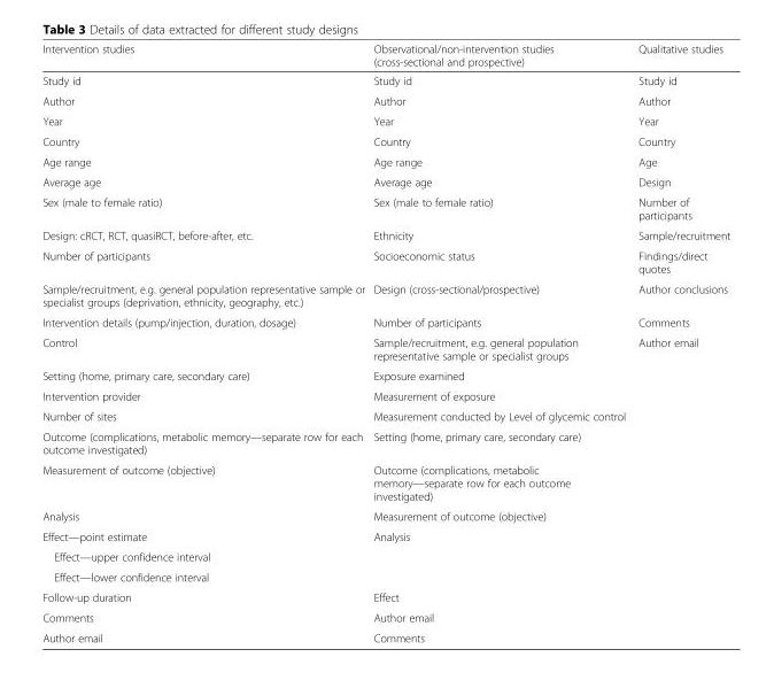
<table><thead><tr><td>Intervention studies</td><td>Observational/non-intervention studies (cross-sectional and prospective)</td><td>Qualitative studies</td></tr></thead><tbody><tr><td>Study id</td><td>Study id</td><td>Study id</td></tr><tr><td>Author</td><td>Author</td><td>Author</td></tr><tr><td>Year</td><td>Year</td><td>Year</td></tr><tr><td>Country</td><td>Country</td><td>Country</td></tr><tr><td>Age range</td><td>Age range</td><td>Age</td></tr><tr><td>Average age</td><td>Average age</td><td>Design</td></tr><tr><td>Sex (male to female ratio)</td><td>Sex (male to female ratio)</td><td>Number of participants</td></tr><tr><td>Design: cRCT, RCT, quasiRCT, before-after, etc.</td><td>Ethnicity</td><td>Sample/recruitment</td></tr><tr><td>Number of participants</td><td>Socioeconomic status</td><td>Findings/direct quotes</td></tr><tr><td>Sample/recruitment, e.g. general population representative sample or specialist groups (deprivation, ethnicity, geography, etc.)</td><td>Design (cross-sectional/prospective)</td><td>Author conclusions</td></tr><tr><td>Intervention details (pump/injection, duration, dosage)</td><td>Number of participants</td><td>Comments</td></tr><tr><td>Control</td><td>Sample/recruitment, e.g. general population representative sample or specialist groups</td><td>Author email</td></tr><tr><td>Setting (home, primary care, secondary care)</td><td>Exposure examined</td><td></td></tr><tr><td>Intervention provider</td><td>Measurement of exposure</td><td></td></tr><tr><td>Number of sites</td><td>Measurement conducted by Level of glycemic control</td><td></td></tr><tr><td>Outcome (complications, metabolic memory—separate row for each outcome investigated)</td><td>Setting (home, primary care, secondary care)</td><td></td></tr><tr><td>Measurement of outcome (objective)</td><td>Outcome (complications, metabolic memory—separate row for each outcome investigated)</td><td></td></tr><tr><td>Analysis</td><td>Measurement of outcome (objective)</td><td></td></tr><tr><td>Effect—point estimate</td><td rowspan="3">Analysis</td><td rowspan="3"></td></tr><tr><td>Effect—upper confidence interval</td></tr><tr><td>Effect—lower confidence interval</td></tr><tr><td>Follow-up duration</td><td>Effect</td><td></td></tr><tr><td>Comments</td><td>Author email</td><td></td></tr><tr><td>Author email</td><td>Comments</td><td></td></tr></tbody></table>